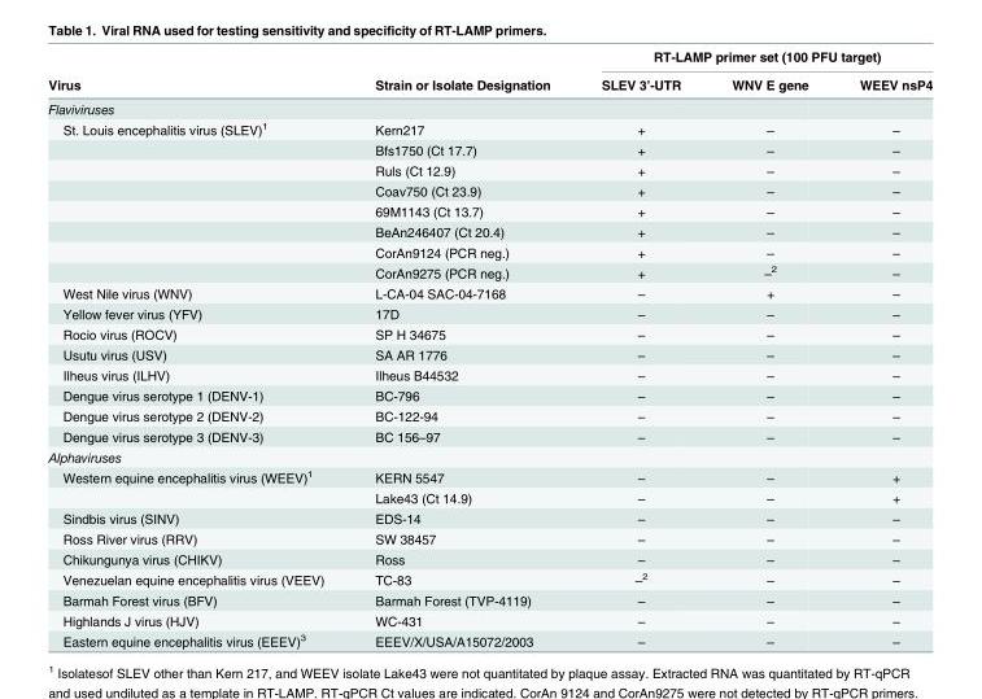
<table><thead><tr><td rowspan="2">Virus</td><td rowspan="2">Strain or Isolate Designation</td><td colspan="3">RT-LAMP primer set (100 PFU target)</td></tr><tr><td>SLEV 3’-UTR</td><td>WNV E gene</td><td>WEEV nsP4</td></tr></thead><tbody><tr><td colspan="5">Flaviviruses</td></tr><tr><td rowspan="8">St. Louis encephalitis virus (SLEV)<sup>1</sup></td><td>Kern217</td><td>+</td><td>–</td><td>–</td></tr><tr><td>Bfs1750 (Ct 17.7)</td><td>+</td><td>–</td><td>–</td></tr><tr><td>Ruls (Ct 12.9)</td><td>+</td><td>–</td><td>–</td></tr><tr><td>Coav750 (Ct 23.9)</td><td>+</td><td>–</td><td>–</td></tr><tr><td>69M1143 (Ct 13.7)</td><td>+</td><td>–</td><td>–</td></tr><tr><td>BeAn246407 (Ct 20.4)</td><td>+</td><td>–</td><td>–</td></tr><tr><td>CorAn9124 (PCR neg.)</td><td>+</td><td>–</td><td>–</td></tr><tr><td>CorAn9275 (PCR neg.)</td><td>+</td><td>–<sup>2</sup></td><td>–</td></tr><tr><td>West Nile virus (WNV)</td><td>L-CA-04 SAC-04-7168</td><td>–</td><td>+</td><td>–</td></tr><tr><td>Yellow fever virus (YFV)</td><td>17D</td><td>–</td><td>–</td><td>–</td></tr><tr><td>Rocio virus (ROCV)</td><td>SP H 34675</td><td>–</td><td>–</td><td>–</td></tr><tr><td>Usutu virus (USV)</td><td>SA AR 1776</td><td>–</td><td>–</td><td>–</td></tr><tr><td>Ilheus virus (ILHV)</td><td>Ilheus B44532</td><td>–</td><td>–</td><td>–</td></tr><tr><td>Dengue virus serotype 1 (DENV-1)</td><td>BC-796</td><td>–</td><td>–</td><td>–</td></tr><tr><td>Dengue virus serotype 2 (DENV-2)</td><td>BC-122-94</td><td>–</td><td>–</td><td>–</td></tr><tr><td>Dengue virus serotype 3 (DENV-3)</td><td>BC 156–97</td><td>–</td><td>–</td><td>–</td></tr><tr><td colspan="5">Alphaviruses</td></tr><tr><td rowspan="2">Western equine encephalitis virus (WEEV)<sup>1</sup></td><td>KERN 5547</td><td>–</td><td>–</td><td>+</td></tr><tr><td>Lake43 (Ct 14.9)</td><td>–</td><td>–</td><td>+</td></tr><tr><td>Sindbis virus (SINV)</td><td>EDS-14</td><td>–</td><td>–</td><td>–</td></tr><tr><td>Ross River virus (RRV)</td><td>SW 38457</td><td>–</td><td>–</td><td>–</td></tr><tr><td>Chikungunya virus (CHIKV)</td><td>Ross</td><td>–</td><td>–</td><td>–</td></tr><tr><td>Venezuelan equine encephalitis virus (VEEV)</td><td>TC-83</td><td>–<sup>2</sup></td><td>–</td><td>–</td></tr><tr><td>Barmah Forest virus (BFV)</td><td>Barmah Forest (TVP-4119)</td><td>–</td><td>–</td><td>–</td></tr><tr><td>Highlands J virus (HJV)</td><td>WC-431</td><td>–</td><td>–</td><td>–</td></tr><tr><td>Eastern equine encephalitis virus (EEEV)<sup>3</sup></td><td>EEEV/X/USA/A15072/2003</td><td>–</td><td>–</td><td>–</td></tr></tbody></table>